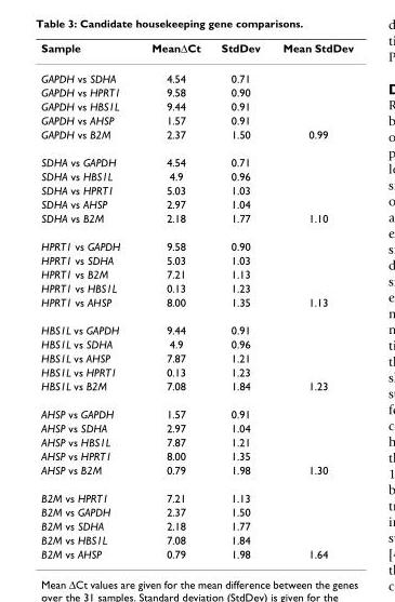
<table><thead><tr><td>Sample</td><td>MeanΔCt</td><td>StdDev</td><td>Mean StdDev</td></tr></thead><tbody><tr><td>GAPDH vs SDHA</td><td>4.54</td><td>0.71</td><td></td></tr><tr><td>GAPDH vs HPRT1</td><td>9.58</td><td>0.90</td><td></td></tr><tr><td>GAPDH vs HBS1L</td><td>9.44</td><td>0.91</td><td></td></tr><tr><td>GAPDH vs AHSP</td><td>1.57</td><td>0.91</td><td></td></tr><tr><td>GAPDH vs B2M</td><td>2.37</td><td>1.50</td><td>0.99</td></tr><tr><td>SDHA vs GAPDH</td><td>4.54</td><td>0.71</td><td></td></tr><tr><td>SDHA vs HBS1L</td><td>4.9</td><td>0.96</td><td></td></tr><tr><td>SDHA vs HPRT1</td><td>5.03</td><td>1.03</td><td></td></tr><tr><td>SDHA vs AHSP</td><td>2.97</td><td>1.04</td><td></td></tr><tr><td>SDHA vs B2M</td><td>2.18</td><td>1.77</td><td>1.10</td></tr><tr><td>HPRT1 vs GAPDH</td><td>9.58</td><td>0.90</td><td></td></tr><tr><td>HPRT1 vs SDHA</td><td>5.03</td><td>1.03</td><td></td></tr><tr><td>HPRT1 vs B2M</td><td>7.21</td><td>1.13</td><td></td></tr><tr><td>HPRT1 vs HBS1L</td><td>0.13</td><td>1.23</td><td></td></tr><tr><td>HPRT1 vs AHSP</td><td>8.00</td><td>1.35</td><td>1.13</td></tr><tr><td>HBS1L vs GAPDH</td><td>9.44</td><td>0.91</td><td></td></tr><tr><td>HBS1L vs SDHA</td><td>4.9</td><td>0.96</td><td></td></tr><tr><td>HBS1L vs AHSP</td><td>7.87</td><td>1.21</td><td></td></tr><tr><td>HBS1L vs HPRT1</td><td>0.13</td><td>1.23</td><td></td></tr><tr><td>HBS1L vs B2M</td><td>7.08</td><td>1.84</td><td>1.23</td></tr><tr><td>AHSP vs GAPDH</td><td>1.57</td><td>0.91</td><td></td></tr><tr><td>AHSP vs SDHA</td><td>2.97</td><td>1.04</td><td></td></tr><tr><td>AHSP vs HBS1L</td><td>7.87</td><td>1.21</td><td></td></tr><tr><td>AHSP vs HPRT1</td><td>8.00</td><td>1.35</td><td></td></tr><tr><td>AHSP vs B2M</td><td>0.79</td><td>1.98</td><td>1.30</td></tr><tr><td>B2M vs HPRT1</td><td>7.21</td><td>1.13</td><td></td></tr><tr><td>B2M vs GAPDH</td><td>2.37</td><td>1.50</td><td></td></tr><tr><td>B2M vs SDHA</td><td>2.18</td><td>1.77</td><td></td></tr><tr><td>B2M vs HBS1L</td><td>7.08</td><td>1.84</td><td></td></tr><tr><td>B2M vs AHSP</td><td>0.79</td><td>1.98</td><td>1.64</td></tr></tbody></table>